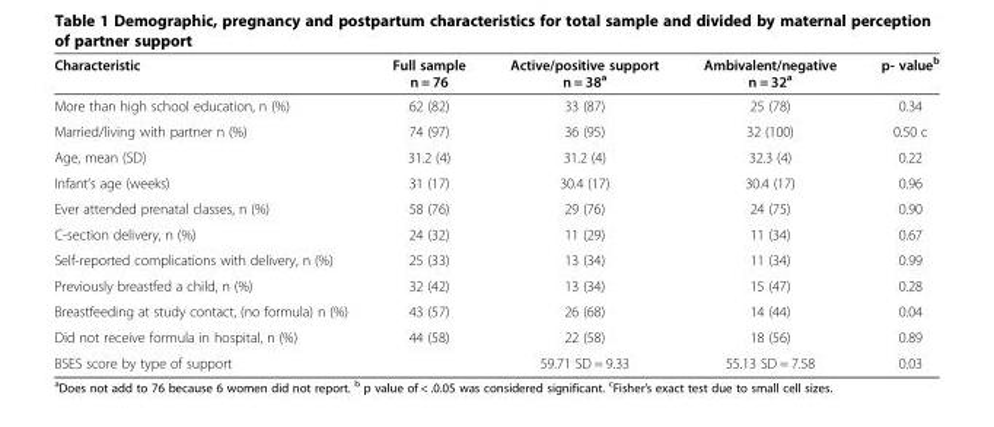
<table><thead><tr><td>Characteristic</td><td>Full sample n = 76</td><td>Active/positive support n = 38<sup>a</sup></td><td>Ambivalent/negative n = 32<sup>a</sup></td><td>p- value<sup>b</sup></td></tr></thead><tbody><tr><td>More than high school education, n (%)</td><td>62 (82)</td><td>33 (87)</td><td>25 (78)</td><td>0.34</td></tr><tr><td>Married/living with partner n (%)</td><td>74 (97)</td><td>36 (95)</td><td>32 (100)</td><td>0.50 c</td></tr><tr><td>Age, mean (SD)</td><td>31.2 (4)</td><td>31.2 (4)</td><td>32.3 (4)</td><td>0.22</td></tr><tr><td>Infant’s age (weeks)</td><td>31 (17)</td><td>30.4 (17)</td><td>30.4 (17)</td><td>0.96</td></tr><tr><td>Ever attended prenatal classes, n (%)</td><td>58 (76)</td><td>29 (76)</td><td>24 (75)</td><td>0.90</td></tr><tr><td>C-section delivery, n (%)</td><td>24 (32)</td><td>11 (29)</td><td>11 (34)</td><td>0.67</td></tr><tr><td>Self-reported complications with delivery, n (%)</td><td>25 (33)</td><td>13 (34)</td><td>11 (34)</td><td>0.99</td></tr><tr><td>Previously breastfed a child, n (%)</td><td>32 (42)</td><td>13 (34)</td><td>15 (47)</td><td>0.28</td></tr><tr><td>Breastfeeding at study contact, (no formula) n (%)</td><td>43 (57)</td><td>26 (68)</td><td>14 (44)</td><td>0.04</td></tr><tr><td>Did not receive formula in hospital, n (%)</td><td>44 (58)</td><td>22 (58)</td><td>18 (56)</td><td>0.89</td></tr><tr><td>BSES score by type of support</td><td></td><td>59.71 SD = 9.33</td><td>55.13 SD = 7.58</td><td>0.03</td></tr></tbody></table>